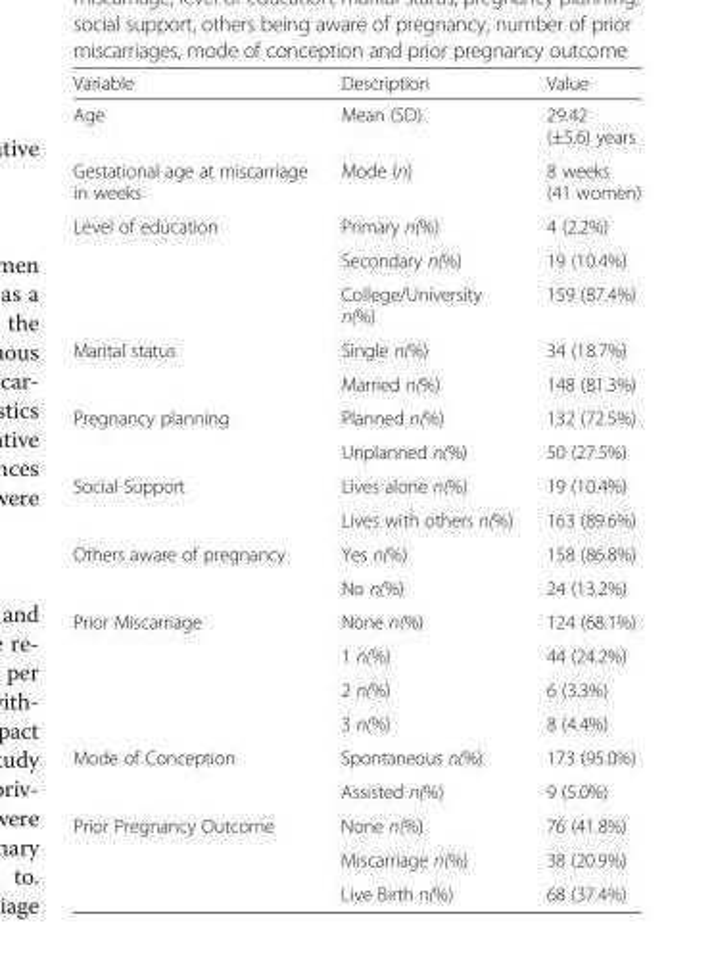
<table><thead><tr><td>Variable</td><td>Description</td><td>Value</td></tr></thead><tbody><tr><td>Age</td><td>Mean (SD)</td><td>29.42 (±5.6) years</td></tr><tr><td>Gestational age at miscarriage in weeks</td><td>Mode (n)</td><td>8 weeks (41 women)</td></tr><tr><td rowspan="3">Level of education</td><td>Primary n(%)</td><td>4 (2.2%)</td></tr><tr><td>Secondary n(%)</td><td>19 (10.4%)</td></tr><tr><td>College/University n(%)</td><td>159 (87.4%)</td></tr><tr><td rowspan="2">Marital status</td><td>Single n(%)</td><td>34 (18.7%)</td></tr><tr><td>Married n(%)</td><td>148 (81.3%)</td></tr><tr><td rowspan="2">Pregnancy planning</td><td>Planned n(%)</td><td>132 (72.5%)</td></tr><tr><td>Unplanned n(%)</td><td>50 (27.5%)</td></tr><tr><td rowspan="2">Social Support</td><td>Lives alone n(%)</td><td>19 (10.4%)</td></tr><tr><td>Lives with others n(%)</td><td>163 (89.6%)</td></tr><tr><td rowspan="2">Others aware of pregnancy</td><td>Yes n(%)</td><td>158 (86.8%)</td></tr><tr><td>No n(%)</td><td>24 (13.2%)</td></tr><tr><td rowspan="4">Prior Miscarriage</td><td>None n(%)</td><td>124 (68.1%)</td></tr><tr><td>1 n(%)</td><td>44 (24.2%)</td></tr><tr><td>2 n(%)</td><td>6 (3.3%)</td></tr><tr><td>3 n(%)</td><td>8 (4.4%)</td></tr><tr><td rowspan="2">Mode of Conception</td><td>Spontaneous n(%)</td><td>173 (95.0%)</td></tr><tr><td>Assisted n(%)</td><td>9 (5.0%)</td></tr><tr><td rowspan="3">Prior Pregnancy Outcome</td><td>None n(%)</td><td>76 (41.8%)</td></tr><tr><td>Miscarriage n(%)</td><td>38 (20.9%)</td></tr><tr><td>Live Birth n(%)</td><td>68 (37.4%)</td></tr></tbody></table>